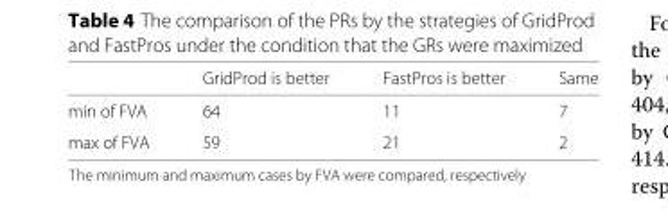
<table><thead><tr><td></td><td>GridProd is better</td><td>FastPros is better</td><td>Same</td></tr></thead><tbody><tr><td>min of FVA</td><td>64</td><td>11</td><td>7</td></tr><tr><td>max of FVA</td><td>59</td><td>21</td><td>2</td></tr></tbody></table>